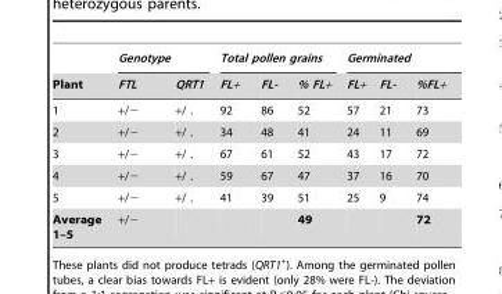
<table><thead><tr><td rowspan="2">Plant</td><td colspan="2">Genotype</td><td colspan="3">Total pollen grains</td><td colspan="3">Germinated</td></tr><tr><td>FTL</td><td>QRT1</td><td>FL+</td><td>FL-</td><td>% FL+</td><td>FL+</td><td>FL-</td><td>%FL+</td></tr></thead><tbody><tr><td>1</td><td>+/−</td><td>+/ .</td><td>92</td><td>86</td><td>52</td><td>57</td><td>21</td><td>73</td></tr><tr><td>2</td><td>+/−</td><td>+/ .</td><td>34</td><td>48</td><td>41</td><td>24</td><td>11</td><td>69</td></tr><tr><td>3</td><td>+/−</td><td>+/ .</td><td>67</td><td>61</td><td>52</td><td>43</td><td>17</td><td>72</td></tr><tr><td>4</td><td>+/−</td><td>+/ .</td><td>59</td><td>67</td><td>47</td><td>37</td><td>16</td><td>70</td></tr><tr><td>5</td><td>+/−</td><td>+/ .</td><td>41</td><td>39</td><td>51</td><td>25</td><td>9</td><td>74</td></tr><tr><td>Average 1–5</td><td>+/−</td><td></td><td></td><td></td><td>49</td><td></td><td></td><td>72</td></tr></tbody></table>